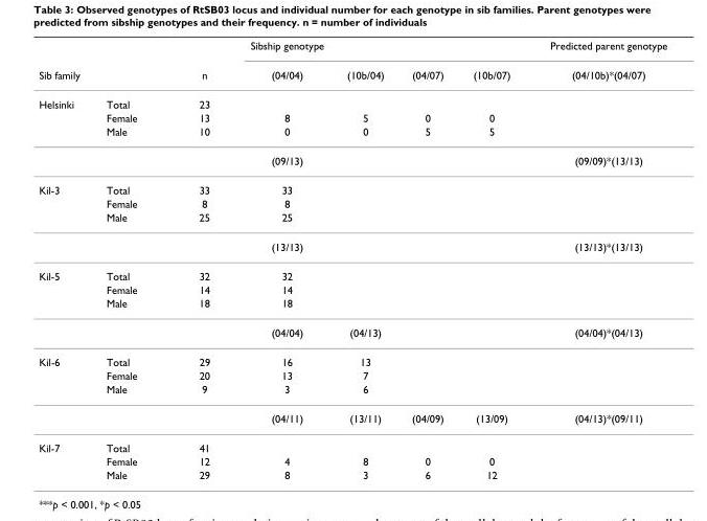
<table><thead><tr><td rowspan="2">Sib family</td><td rowspan="2"></td><td rowspan="2">n</td><td rowspan="2">Sibship genotype (04/04)</td><td rowspan="2">(10b/04)</td><td rowspan="2">(04/07)</td><td rowspan="2">(10b/07)</td><td rowspan="2">Predicted parent genotype (04/10b)*(04/07)</td></tr><tr></tr></thead><tbody><tr><td rowspan="4">Helsinki</td><td>Total</td><td>23</td><td></td><td></td><td></td><td></td><td></td></tr><tr><td>Female</td><td>13</td><td>8</td><td>5</td><td>0</td><td>0</td><td></td></tr><tr><td>Male</td><td>10</td><td>0</td><td>0</td><td>5</td><td>5</td><td></td></tr><tr><td></td><td></td><td>(09/13)</td><td></td><td></td><td></td><td>(09/09)*(13/13)</td></tr><tr><td rowspan="4">Kil-3</td><td>Total</td><td>33</td><td>33</td><td></td><td></td><td></td><td></td></tr><tr><td>Female</td><td>8</td><td>8</td><td></td><td></td><td></td><td></td></tr><tr><td>Male</td><td>25</td><td>25</td><td></td><td></td><td></td><td></td></tr><tr><td></td><td></td><td>(13/13)</td><td></td><td></td><td></td><td>(13/13)*(13/13)</td></tr><tr><td rowspan="4">Kil-5</td><td>Total</td><td>32</td><td>32</td><td></td><td></td><td></td><td></td></tr><tr><td>Female</td><td>14</td><td>14</td><td></td><td></td><td></td><td></td></tr><tr><td>Male</td><td>18</td><td>18</td><td></td><td></td><td></td><td></td></tr><tr><td></td><td></td><td>(04/04)</td><td>(04/13)</td><td></td><td></td><td>(04/04)*(04/13)</td></tr><tr><td rowspan="4">Kil-6</td><td>Total</td><td>29</td><td>16</td><td>13</td><td></td><td></td><td></td></tr><tr><td>Female</td><td>20</td><td>13</td><td>7</td><td></td><td></td><td></td></tr><tr><td>Male</td><td>9</td><td>3</td><td>6</td><td></td><td></td><td></td></tr><tr><td></td><td></td><td>(04/11)</td><td>(13/11)</td><td>(04/09)</td><td>(13/09)</td><td>(04/13)*(09/11)</td></tr><tr><td rowspan="3">Kil-7</td><td>Total</td><td>41</td><td></td><td></td><td></td><td></td><td></td></tr><tr><td>Female</td><td>12</td><td>4</td><td>8</td><td>0</td><td>0</td><td></td></tr><tr><td>Male</td><td>29</td><td>8</td><td>3</td><td>6</td><td>12</td><td></td></tr></tbody></table>